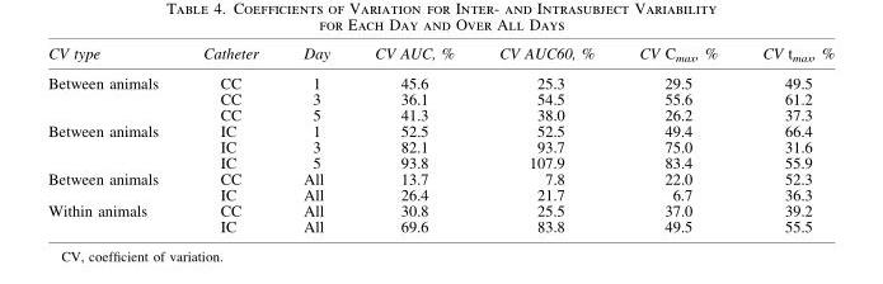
<table><thead><tr><td>CV type</td><td>Catheter</td><td>Day</td><td>CV AUC, %</td><td>CV AUC60, %</td><td>CV C<sub>max</sub>, %</td><td>CV t<sub>max</sub>, %</td></tr></thead><tbody><tr><td rowspan="3">Between animals</td><td>CC</td><td>1</td><td>45.6</td><td>25.3</td><td>29.5</td><td>49.5</td></tr><tr><td>CC</td><td>3</td><td>36.1</td><td>54.5</td><td>55.6</td><td>61.2</td></tr><tr><td>CC</td><td>5</td><td>41.3</td><td>38.0</td><td>26.2</td><td>37.3</td></tr><tr><td rowspan="3">Between animals</td><td>IC</td><td>1</td><td>52.5</td><td>52.5</td><td>49.4</td><td>66.4</td></tr><tr><td>IC</td><td>3</td><td>82.1</td><td>93.7</td><td>75.0</td><td>31.6</td></tr><tr><td>IC</td><td>5</td><td>93.8</td><td>107.9</td><td>83.4</td><td>55.9</td></tr><tr><td rowspan="2">Between animals</td><td>CC</td><td>All</td><td>13.7</td><td>7.8</td><td>22.0</td><td>52.3</td></tr><tr><td>IC</td><td>All</td><td>26.4</td><td>21.7</td><td>6.7</td><td>36.3</td></tr><tr><td rowspan="2">Within animals</td><td>CC</td><td>All</td><td>30.8</td><td>25.5</td><td>37.0</td><td>39.2</td></tr><tr><td>IC</td><td>All</td><td>69.6</td><td>83.8</td><td>49.5</td><td>55.5</td></tr></tbody></table>